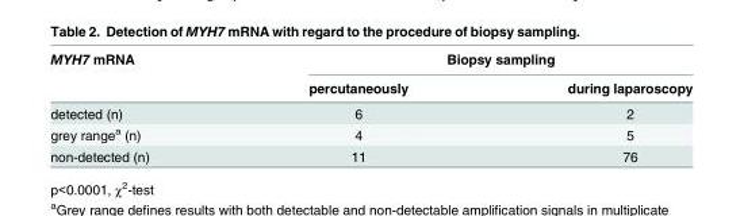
<table><thead><tr><td rowspan="2">MYH7 mRNA</td><td colspan="2">Biopsy sampling</td></tr><tr><td>percutaneously</td><td>during laparoscopy</td></tr></thead><tbody><tr><td>detected (n)</td><td>6</td><td>2</td></tr><tr><td>grey range<sup>a</sup> (n)</td><td>4</td><td>5</td></tr><tr><td>non-detected (n)</td><td>11</td><td>76</td></tr></tbody></table>